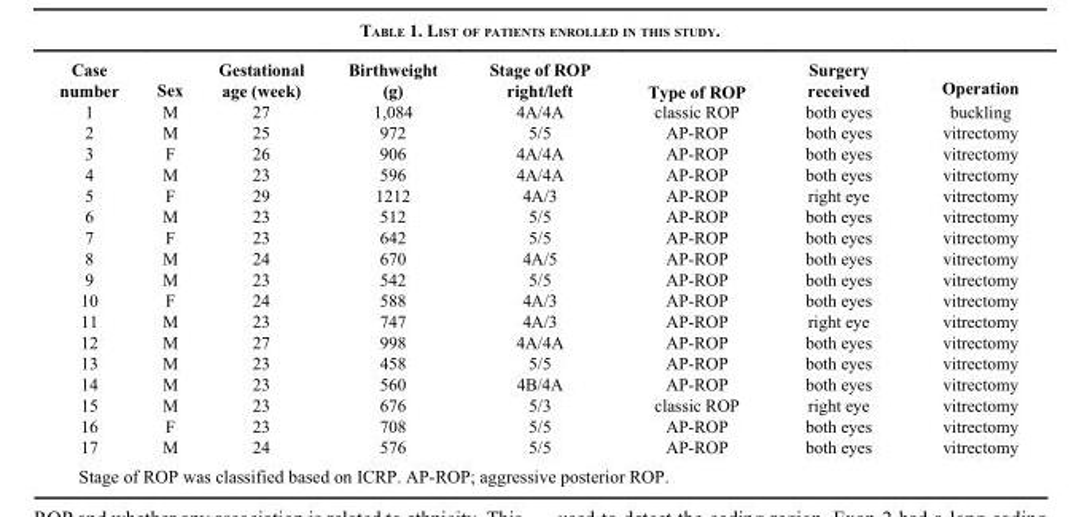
<table><thead><tr><td>Case number</td><td>Sex</td><td>Gestational age (week)</td><td>Birthweight (g)</td><td>Stage of ROP right/left</td><td>Type of ROP</td><td>Surgery received</td><td>Operation</td></tr></thead><tbody><tr><td>1</td><td>M</td><td>27</td><td>1,084</td><td>4A/4A</td><td>classic ROP</td><td>both eyes</td><td>buckling</td></tr><tr><td>2</td><td>M</td><td>25</td><td>972</td><td>5/5</td><td>AP-ROP</td><td>both eyes</td><td>vitrectomy</td></tr><tr><td>3</td><td>F</td><td>26</td><td>906</td><td>4A/4A</td><td>AP-ROP</td><td>both eyes</td><td>vitrectomy</td></tr><tr><td>4</td><td>M</td><td>23</td><td>596</td><td>4A/4A</td><td>AP-ROP</td><td>both eyes</td><td>vitrectomy</td></tr><tr><td>5</td><td>F</td><td>29</td><td>1212</td><td>4A/3</td><td>AP-ROP</td><td>right eye</td><td>vitrectomy</td></tr><tr><td>6</td><td>M</td><td>23</td><td>512</td><td>5/5</td><td>AP-ROP</td><td>both eyes</td><td>vitrectomy</td></tr><tr><td>7</td><td>F</td><td>23</td><td>642</td><td>5/5</td><td>AP-ROP</td><td>both eyes</td><td>vitrectomy</td></tr><tr><td>8</td><td>M</td><td>24</td><td>670</td><td>4A/5</td><td>AP-ROP</td><td>both eyes</td><td>vitrectomy</td></tr><tr><td>9</td><td>M</td><td>23</td><td>542</td><td>5/5</td><td>AP-ROP</td><td>both eyes</td><td>vitrectomy</td></tr><tr><td>10</td><td>F</td><td>24</td><td>588</td><td>4A/3</td><td>AP-ROP</td><td>both eyes</td><td>vitrectomy</td></tr><tr><td>11</td><td>M</td><td>23</td><td>747</td><td>4A/3</td><td>AP-ROP</td><td>right eye</td><td>vitrectomy</td></tr><tr><td>12</td><td>M</td><td>27</td><td>998</td><td>4A/4A</td><td>AP-ROP</td><td>both eyes</td><td>vitrectomy</td></tr><tr><td>13</td><td>M</td><td>23</td><td>458</td><td>5/5</td><td>AP-ROP</td><td>both eyes</td><td>vitrectomy</td></tr><tr><td>14</td><td>M</td><td>23</td><td>560</td><td>4B/4A</td><td>AP-ROP</td><td>both eyes</td><td>vitrectomy</td></tr><tr><td>15</td><td>M</td><td>23</td><td>676</td><td>5/3</td><td>classic ROP</td><td>right eye</td><td>vitrectomy</td></tr><tr><td>16</td><td>F</td><td>23</td><td>708</td><td>5/5</td><td>AP-ROP</td><td>both eyes</td><td>vitrectomy</td></tr><tr><td>17</td><td>M</td><td>24</td><td>576</td><td>5/5</td><td>AP-ROP</td><td>both eyes</td><td>vitrectomy</td></tr></tbody></table>